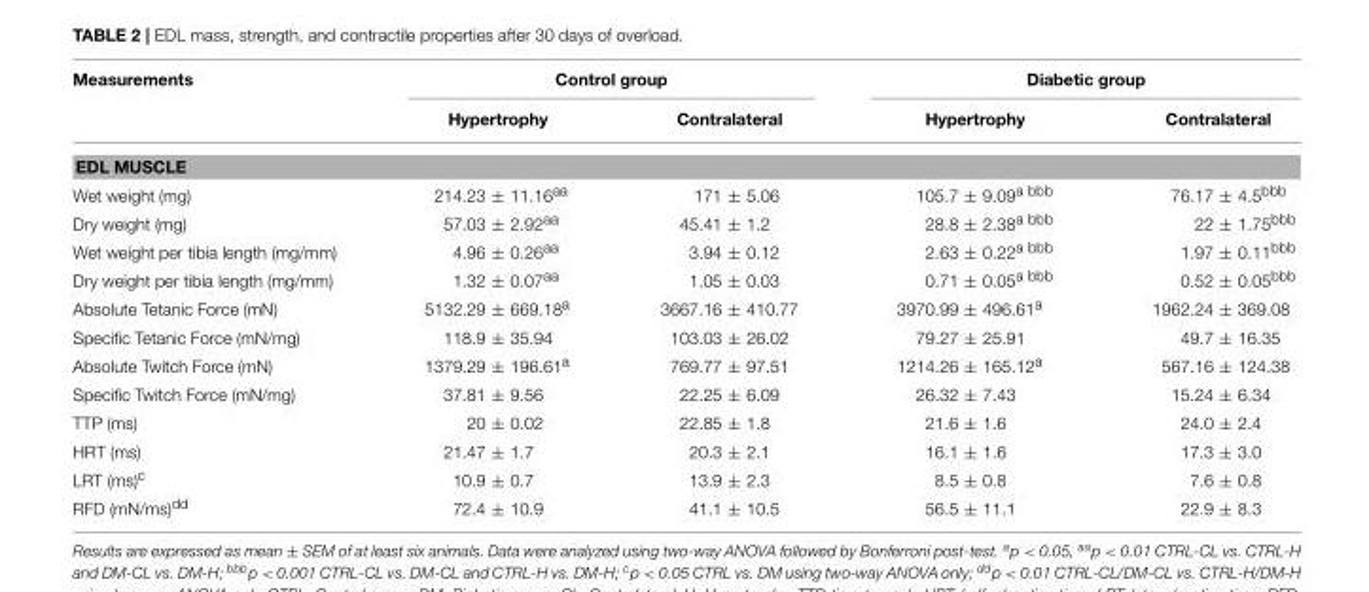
<table><thead><tr><td rowspan="2">Measurements</td><td colspan="2">Control group</td><td colspan="2">Diabetic group</td></tr><tr><td>Hypertrophy</td><td>Contralateral</td><td>Hypertrophy</td><td>Contralateral</td></tr></thead><tbody><tr><td colspan="5">EDL MUSCLE</td></tr><tr><td>Wet weight (mg)</td><td>214.23 ± 11.16<sup>aa</sup></td><td>171 ± 5.06</td><td>105.7 ± 9.09<sup>a bbb</sup></td><td>76.17 ± 4.5<sup>bbb</sup></td></tr><tr><td>Dry weight (mg)</td><td>57.03 ± 2.92<sup>aa</sup></td><td>45.41 ± 1.2</td><td>28.8 ± 2.38<sup>a bbb</sup></td><td>22 ± 1.75<sup>bbb</sup></td></tr><tr><td>Wet weight per tibia length (mg/mm)</td><td>4.96 ± 0.26<sup>aa</sup></td><td>3.94 ± 0.12</td><td>2.63 ± 0.22<sup>a bbb</sup></td><td>1.97 ± 0.11<sup>bbb</sup></td></tr><tr><td>Dry weight per tibia length (mg/mm)</td><td>1.32 ± 0.07<sup>aa</sup></td><td>1.05 ± 0.03</td><td>0.71 ± 0.05<sup>a bbb</sup></td><td>0.52 ± 0.05<sup>bbb</sup></td></tr><tr><td>Absolute Tetanic Force (mN)</td><td>5132.29 ± 669.18<sup>a</sup></td><td>3667.16 ± 410.77</td><td>3970.99 ± 496.61<sup>a</sup></td><td>1962.24 ± 369.08</td></tr><tr><td>Specific Tetanic Force (mN/mg)</td><td>118.9 ± 35.94</td><td>103.03 ± 26.02</td><td>79.27 ± 25.91</td><td>49.7 ± 16.35</td></tr><tr><td>Absolute Twitch Force (mN)</td><td>1379.29 ± 196.61<sup>a</sup></td><td>769.77 ± 97.51</td><td>1214.26 ± 165.12<sup>a</sup></td><td>567.16 ± 124.38</td></tr><tr><td>Specific Twitch Force (mN/mg)</td><td>37.81 ± 9.56</td><td>22.25 ± 6.09</td><td>26.32 ± 7.43</td><td>15.24 ± 6.34</td></tr><tr><td>TTP (ms)</td><td>20 ± 0.02</td><td>22.85 ± 1.8</td><td>21.6 ± 1.6</td><td>24.0 ± 2.4</td></tr><tr><td>HRT (ms)</td><td>21.47 ± 1.7</td><td>20.3 ± 2.1</td><td>16.1 ± 1.6</td><td>17.3 ± 3.0</td></tr><tr><td>LRT (ms)<sup>c</sup></td><td>10.9 ± 0.7</td><td>13.9 ± 2.3</td><td>8.5 ± 0.8</td><td>7.6 ± 0.8</td></tr><tr><td>RFD (mN/ms)<sup>dd</sup></td><td>72.4 ± 10.9</td><td>41.1 ± 10.5</td><td>56.5 ± 11.1</td><td>22.9 ± 8.3</td></tr></tbody></table>